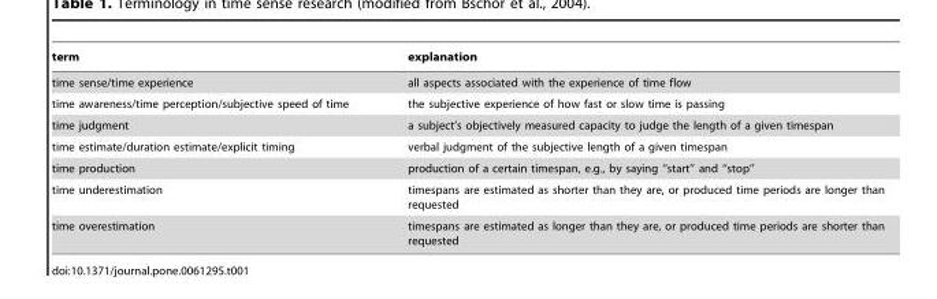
<table><thead><tr><td>term</td><td>explanation</td></tr></thead><tbody><tr><td>time sense/time experience</td><td>all aspects associated with the experience of time flow</td></tr><tr><td>time awareness/time perception/subjective speed of time</td><td>the subjective experience of how fast or slow time is passing</td></tr><tr><td>time judgment</td><td>a subject’s objectively measured capacity to judge the length of a given timespan</td></tr><tr><td>time estimate/duration estimate/explicit timing</td><td>verbal judgment of the subjective length of a given timespan</td></tr><tr><td>time production</td><td>production of a certain timespan, e.g., by saying ‘‘start’’ and ‘‘stop’’</td></tr><tr><td>time underestimation</td><td>timespans are estimated as shorter than they are, or produced time periods are longer than requested</td></tr><tr><td>time overestimation</td><td>timespans are estimated as longer than they are, or produced time periods are shorter than requested</td></tr></tbody></table>